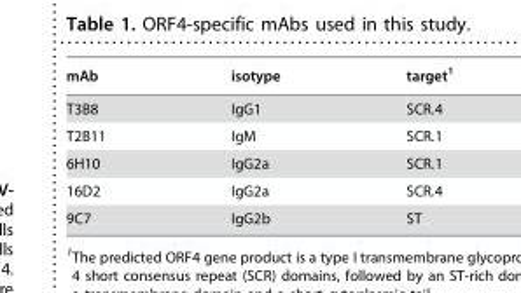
<table><thead><tr><td>mAb</td><td>isotype</td><td>target<sup>1</sup></td></tr></thead><tbody><tr><td>T3B8</td><td>IgG1</td><td>SCR.4</td></tr><tr><td>T2B11</td><td>IgM</td><td>SCR.1</td></tr><tr><td>6H10</td><td>IgG2a</td><td>SCR.1</td></tr><tr><td>16D2</td><td>IgG2a</td><td>SCR.4</td></tr><tr><td>9C7</td><td>IgG2b</td><td>ST</td></tr></tbody></table>